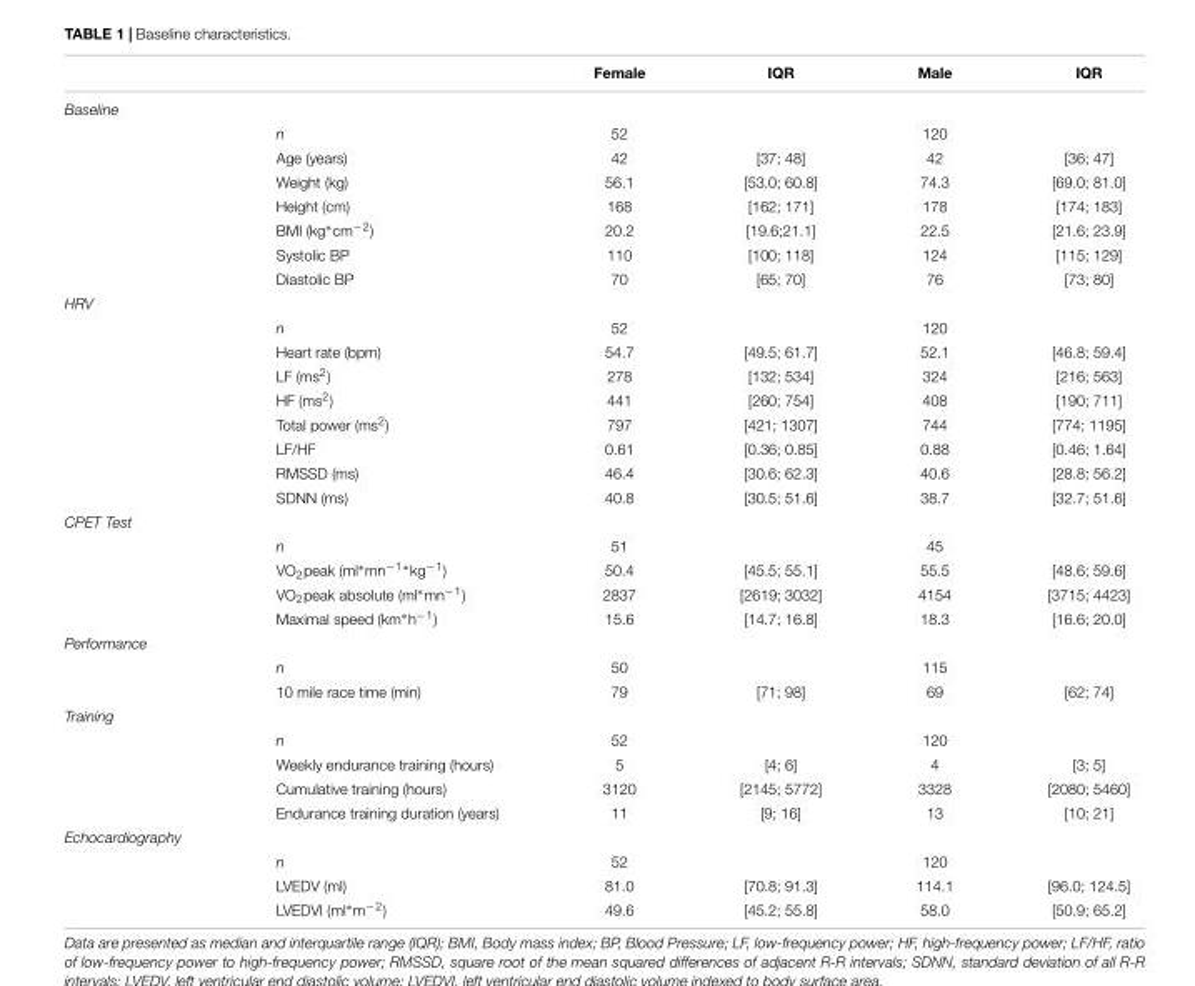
<table><thead><tr><td></td><td></td><td>Female</td><td>IQR</td><td>Male</td><td>IQR</td></tr></thead><tbody><tr><td colspan="6">Baseline</td></tr><tr><td></td><td>n</td><td>52</td><td></td><td>120</td><td></td></tr><tr><td></td><td>Age (years)</td><td>42</td><td>[37; 48]</td><td>42</td><td>[36; 47]</td></tr><tr><td></td><td>Weight (kg)</td><td>56.1</td><td>[53.0; 60.8]</td><td>74.3</td><td>[69.0; 81.0]</td></tr><tr><td></td><td>Height (cm)</td><td>168</td><td>[162; 171]</td><td>178</td><td>[174; 183]</td></tr><tr><td></td><td>BMI (kg∗cm<sup>−2</sup>)</td><td>20.2</td><td>[19.6;21.1]</td><td>22.5</td><td>[21.6; 23.9]</td></tr><tr><td></td><td>Systolic BP</td><td>110</td><td>[100; 118]</td><td>124</td><td>[115; 129]</td></tr><tr><td></td><td>Diastolic BP</td><td>70</td><td>[65; 70]</td><td>76</td><td>[73; 80]</td></tr><tr><td colspan="6">HRV</td></tr><tr><td></td><td>n</td><td>52</td><td></td><td>120</td><td></td></tr><tr><td></td><td>Heart rate (bpm)</td><td>54.7</td><td>[49.5; 61.7]</td><td>52.1</td><td>[46.8; 59.4]</td></tr><tr><td></td><td>LF (ms<sup>2</sup>)</td><td>278</td><td>[132; 534]</td><td>324</td><td>[216; 563]</td></tr><tr><td></td><td>HF (ms<sup>2</sup>)</td><td>441</td><td>[260; 754]</td><td>408</td><td>[190; 711]</td></tr><tr><td></td><td>Total power (ms<sup>2</sup>)</td><td>797</td><td>[421; 1307]</td><td>744</td><td>[774; 1195]</td></tr><tr><td></td><td>LF/HF</td><td>0.61</td><td>[0.36; 0.85]</td><td>0.88</td><td>[0.46; 1.64]</td></tr><tr><td></td><td>RMSSD (ms)</td><td>46.4</td><td>[30.6; 62.3]</td><td>40.6</td><td>[28.8; 56.2]</td></tr><tr><td></td><td>SDNN (ms)</td><td>40.8</td><td>[30.5; 51.6]</td><td>38.7</td><td>[32.7; 51.6]</td></tr><tr><td colspan="6">CPET Test</td></tr><tr><td></td><td>n</td><td>51</td><td></td><td>45</td><td></td></tr><tr><td></td><td>VO<sub>2</sub>peak (ml∗mn<sup>−1∗</sup>kg<sup>−1</sup>)</td><td>50.4</td><td>[45.5; 55.1]</td><td>55.5</td><td>[48.6; 59.6]</td></tr><tr><td></td><td>VO<sub>2</sub>peak absolute (ml∗mn<sup>−1</sup>)</td><td>2837</td><td>[2619; 3032]</td><td>4154</td><td>[3715; 4423]</td></tr><tr><td></td><td>Maximal speed (km∗h<sup>−1</sup>)</td><td>15.6</td><td>[14.7; 16.8]</td><td>18.3</td><td>[16.6; 20.0]</td></tr><tr><td colspan="6">Performance</td></tr><tr><td></td><td>n</td><td>50</td><td></td><td>115</td><td></td></tr><tr><td></td><td>10 mile race time (min)</td><td>79</td><td>[71; 98]</td><td>69</td><td>[62; 74]</td></tr><tr><td colspan="6">Training</td></tr><tr><td></td><td>n</td><td>52</td><td></td><td>120</td><td></td></tr><tr><td></td><td>Weekly endurance training (hours)</td><td>5</td><td>[4; 6]</td><td>4</td><td>[3; 5]</td></tr><tr><td></td><td>Cumulative training (hours)</td><td>3120</td><td>[2145; 5772]</td><td>3328</td><td>[2080; 5460]</td></tr><tr><td></td><td>Endurance training duration (years)</td><td>11</td><td>[9; 16]</td><td>13</td><td>[10; 21]</td></tr><tr><td colspan="6">Echocardiography</td></tr><tr><td></td><td>n</td><td>52</td><td></td><td>120</td><td></td></tr><tr><td></td><td>LVEDV (ml)</td><td>81.0</td><td>[70.8; 91.3]</td><td>114.1</td><td>[96.0; 124.5]</td></tr><tr><td></td><td>LVEDVI (ml∗m<sup>−2</sup>)</td><td>49.6</td><td>[45.2; 55.8]</td><td>58.0</td><td>[50.9; 65.2]</td></tr></tbody></table>